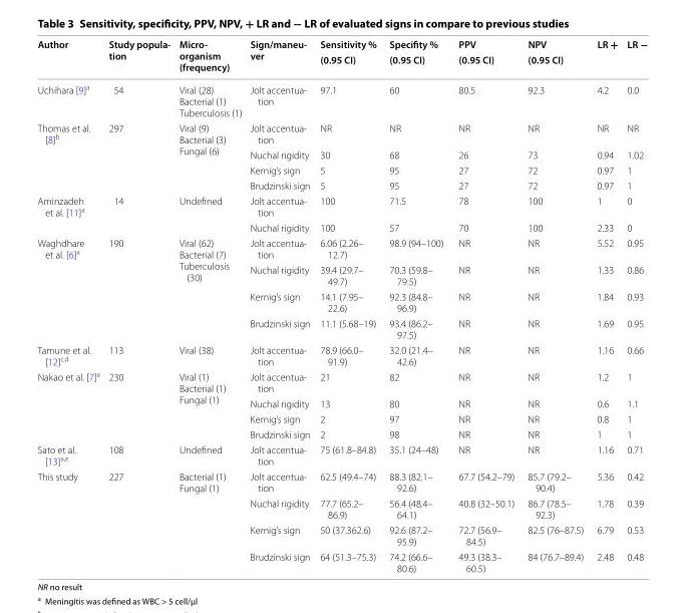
<table><thead><tr><td rowspan="2">Author</td><td rowspan="2">Study popula- tion</td><td rowspan="2">Micro- organism (frequency)</td><td rowspan="2">Sign/maneu- ver</td><td rowspan="2">Sensitivity % (0.95 CI)</td><td rowspan="2">Specifity % (0.95 CI)</td><td rowspan="2">PPV (0.95 CI)</td><td rowspan="2">NPV (0.95 CI)</td><td rowspan="2">LR +</td><td rowspan="2">LR −</td></tr><tr></tr></thead><tbody><tr><td>Uchihara [9]<sup>a</sup></td><td>54</td><td>Viral (28) Bacterial (1) Tuberculosis (1)</td><td>Jolt accentua- tion</td><td>97.1</td><td>60</td><td>80.5</td><td>92.3</td><td>4.2</td><td>0.0</td></tr><tr><td rowspan="4">Thomas et al. [8]<sup>b</sup></td><td rowspan="4">297</td><td rowspan="4">Viral (9) Bacterial (3) Fungal (6)</td><td>Jolt accentua- tion</td><td>NR</td><td>NR</td><td>NR</td><td>NR</td><td>NR</td><td>NR</td></tr><tr><td>Nuchal rigidity</td><td>30</td><td>68</td><td>26</td><td>73</td><td>0.94</td><td>1.02</td></tr><tr><td>Kernig’s sign</td><td>5</td><td>95</td><td>27</td><td>72</td><td>0.97</td><td>1</td></tr><tr><td>Brudzinski sign</td><td>5</td><td>95</td><td>27</td><td>72</td><td>0.97</td><td>1</td></tr><tr><td rowspan="2">Aminzadeh et al. [11]<sup>a</sup></td><td rowspan="2">14</td><td rowspan="2">Undefined</td><td>Jolt accentua- tion</td><td>100</td><td>71.5</td><td>78</td><td>100</td><td>1</td><td>0</td></tr><tr><td>Nuchal rigidity</td><td>100</td><td>57</td><td>70</td><td>100</td><td>2.33</td><td>0</td></tr><tr><td rowspan="4">Waghdhare et al. [6]<sup>a</sup></td><td rowspan="4">190</td><td rowspan="4">Viral (62) Bacterial (7) Tuberculosis (30)</td><td>Jolt accentua- tion</td><td>6.06 (2.26– 12.7)</td><td>98.9 (94–100)</td><td>NR</td><td>NR</td><td>5.52</td><td>0.95</td></tr><tr><td>Nuchal rigidity</td><td>39.4 (29.7– 49.7)</td><td>70.3 (59.8– 79.5)</td><td>NR</td><td>NR</td><td>1.33</td><td>0.86</td></tr><tr><td>Kernig’s sign</td><td>14.1 (7.95– 22.6)</td><td>92.3 (84.8– 96.9)</td><td>NR</td><td>NR</td><td>1.84</td><td>0.93</td></tr><tr><td>Brudzinski sign</td><td>11.1 (5.68–19)</td><td>93.4 (86.2– 97.5)</td><td>NR</td><td>NR</td><td>1.69</td><td>0.95</td></tr><tr><td>Tamune et al. [12]<sup>c,d</sup></td><td>113</td><td>Viral (38)</td><td>Jolt accentua- tion</td><td>78.9 (66.0– 91.9)</td><td>32.0 (21.4– 42.6)</td><td>NR</td><td>NR</td><td>1.16</td><td>0.66</td></tr><tr><td rowspan="4">Nakao et al. [7]<sup>a</sup></td><td rowspan="4">230</td><td rowspan="4">Viral (1) Bacterial (1) Fungal (1)</td><td>Jolt accentua- tion</td><td>21</td><td>82</td><td>NR</td><td>NR</td><td>1.2</td><td>1</td></tr><tr><td>Nuchal rigidity</td><td>13</td><td>80</td><td>NR</td><td>NR</td><td>0.6</td><td>1.1</td></tr><tr><td>Kernig’s sign</td><td>2</td><td>97</td><td>NR</td><td>NR</td><td>0.8</td><td>1</td></tr><tr><td>Brudzinski sign</td><td>2</td><td>98</td><td>NR</td><td>NR</td><td>1</td><td>1</td></tr><tr><td>Sato et al. [13]<sup>a,e</sup></td><td>108</td><td>Undefined</td><td>Jolt accentua- tion</td><td>75 (61.8–84.8)</td><td>35.1 (24–48)</td><td>NR</td><td>NR</td><td>1.16</td><td>0.71</td></tr><tr><td rowspan="4">This study</td><td rowspan="4">227</td><td rowspan="4">Bacterial (1) Fungal (1)</td><td>Jolt accentua- tion</td><td>62.5 (49.4–74)</td><td>88.3 (82.1– 92.6)</td><td>67.7 (54.2–79)</td><td>85.7 (79.2– 90.4)</td><td>5.36</td><td>0.42</td></tr><tr><td>Nuchal rigidity</td><td>77.7 (65.2– 86.9)</td><td>56.4 (48.4– 64.1)</td><td>40.8 (32–50.1)</td><td>86.7 (78.5– 92.3)</td><td>1.78</td><td>0.39</td></tr><tr><td>Kernig’s sign</td><td>50 (37.362.6)</td><td>92.6 (87.2– 95.9)</td><td>72.7 (56.9– 84.5)</td><td>82.5 (76–87.5)</td><td>6.79</td><td>0.53</td></tr><tr><td>Brudzinski sign</td><td>64 (51.3–75.3)</td><td>74.2 (66.6– 80.6)</td><td>49.3 (38.3– 60.5)</td><td>84 (76.7–89.4)</td><td>2.48</td><td>0.48</td></tr></tbody></table>